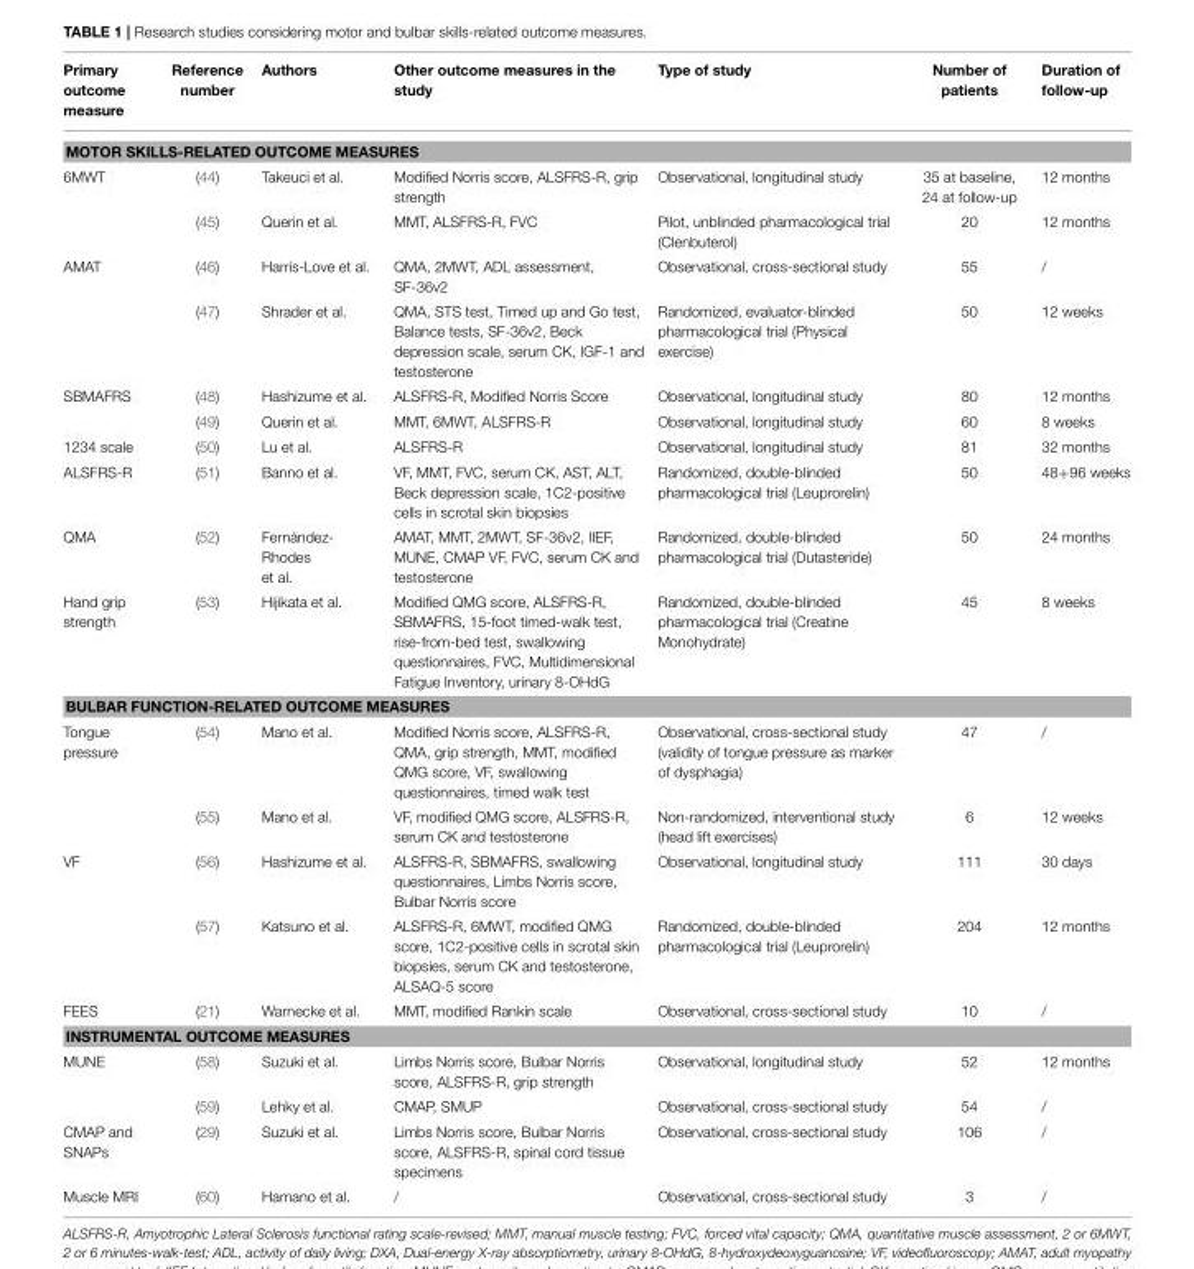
<table><thead><tr><td>Primary outcome measure</td><td>Reference number</td><td>Authors</td><td>Other outcome measures in the study</td><td>Type of study</td><td>Number of patients</td><td>Duration of follow-up</td></tr></thead><tbody><tr><td colspan="7">MOTOR SKILLS-RELATED OUTCOME MEASURES</td></tr><tr><td rowspan="2">6MWT</td><td>(44)</td><td>Takeuci et al.</td><td>Modified Norris score, ALSFRS-R, grip strength</td><td>Observational, longitudinal study</td><td>35 at baseline, 24 at follow-up</td><td>12 months</td></tr><tr><td>(45)</td><td>Querin et al.</td><td>MMT, ALSFRS-R, FVC</td><td>Pilot, unblinded pharmacological trial (Clenbuterol)</td><td>20</td><td>12 months</td></tr><tr><td rowspan="2">AMAT</td><td>(46)</td><td>Harris-Love et al.</td><td>QMA, 2MWT, ADL assessment, SF-36v2</td><td>Observational, cross-sectional study</td><td>55</td><td>/</td></tr><tr><td>(47)</td><td>Shrader et al.</td><td>QMA, STS test, Timed up and Go test, Balance tests, SF-36v2, Beck depression scale, serum CK, IGF-1 and testosterone</td><td>Randomized, evaluator-blinded pharmacological trial (Physical exercise)</td><td>50</td><td>12 weeks</td></tr><tr><td rowspan="2">SBMAFRS</td><td>(48)</td><td>Hashizume et al.</td><td>ALSFRS-R, Modified Norris Score</td><td>Observational, longitudinal study</td><td>80</td><td>12 months</td></tr><tr><td>(49)</td><td>Querin et al.</td><td>MMT, 6MWT, ALSFRS-R</td><td>Observational, longitudinal study</td><td>60</td><td>8 weeks</td></tr><tr><td>1234 scale</td><td>(50)</td><td>Lu et al.</td><td>ALSFRS-R</td><td>Observational, longitudinal study</td><td>81</td><td>32 months</td></tr><tr><td>ALSFRS-R</td><td>(51)</td><td>Banno et al.</td><td>VF, MMT, FVC, serum CK, AST, ALT, Beck depression scale, 1C2-positive cells in scrotal skin biopsies</td><td>Randomized, double-blinded pharmacological trial (Leuprorelin)</td><td>50</td><td>48+96 weeks</td></tr><tr><td>QMA</td><td>(52)</td><td>Fernández- Rhodes et al.</td><td>AMAT, MMT, 2MWT, SF-36v2, IIEF, MUNE, CMAP VF, FVC, serum CK and testosterone</td><td>Randomized, double-blinded pharmacological trial (Dutasteride)</td><td>50</td><td>24 months</td></tr><tr><td>Hand grip strength</td><td>(53)</td><td>Hijikata et al.</td><td>Modified QMG score, ALSFRS-R, SBMAFRS, 15-foot timed-walk test, rise-from-bed test, swallowing questionnaires, FVC, Multidimensional Fatigue Inventory, urinary 8-OHdG</td><td>Randomized, double-blinded pharmacological trial (Creatine Monohydrate)</td><td>45</td><td>8 weeks</td></tr><tr><td colspan="7">BULBAR FUNCTION-RELATED OUTCOME MEASURES</td></tr><tr><td rowspan="2">Tongue pressure</td><td>(54)</td><td>Mano et al.</td><td>Modified Norris score, ALSFRS-R, QMA, grip strength, MMT, modified QMG score, VF, swallowing questionnaires, timed walk test</td><td>Observational, cross-sectional study (validity of tongue pressure as marker of dysphagia)</td><td>47</td><td>/</td></tr><tr><td>(55)</td><td>Mano et al.</td><td>VF, modified QMG score, ALSFRS-R, serum CK and testosterone</td><td>Non-randomized, interventional study (head lift exercises)</td><td>6</td><td>12 weeks</td></tr><tr><td rowspan="2">VF</td><td>(56)</td><td>Hashizume et al.</td><td>ALSFRS-R, SBMAFRS, swallowing questionnaires, Limbs Norris score, Bulbar Norris score</td><td>Observational, longitudinal study</td><td>111</td><td>30 days</td></tr><tr><td>(57)</td><td>Katsuno et al.</td><td>ALSFRS-R, 6MWT, modified QMG score, 1C2-positive cells in scrotal skin biopsies, serum CK and testosterone, ALSAQ-5 score</td><td>Randomized, double-blinded pharmacological trial (Leuprorelin)</td><td>204</td><td>12 months</td></tr><tr><td>FEES</td><td>(21)</td><td>Warnecke et al.</td><td>MMT, modified Rankin scale</td><td>Observational, cross-sectional study</td><td>10</td><td>/</td></tr><tr><td colspan="7">INSTRUMENTAL OUTCOME MEASURES</td></tr><tr><td rowspan="2">MUNE</td><td>(58)</td><td>Suzuki et al.</td><td>Limbs Norris score, Bulbar Norris score, ALSFRS-R, grip strength</td><td>Observational, longitudinal study</td><td>52</td><td>12 months</td></tr><tr><td>(59)</td><td>Lehky et al.</td><td>CMAP, SMUP</td><td>Observational, cross-sectional study</td><td>54</td><td>/</td></tr><tr><td>CMAP and SNAPs</td><td>(29)</td><td>Suzuki et al.</td><td>Limbs Norris score, Bulbar Norris score, ALSFRS-R, spinal cord tissue specimens</td><td>Observational, cross-sectional study</td><td>106</td><td>/</td></tr><tr><td>Muscle MRI</td><td>(60)</td><td>Hamano et al.</td><td>/</td><td>Observational, cross-sectional study</td><td>3</td><td>/</td></tr></tbody></table>